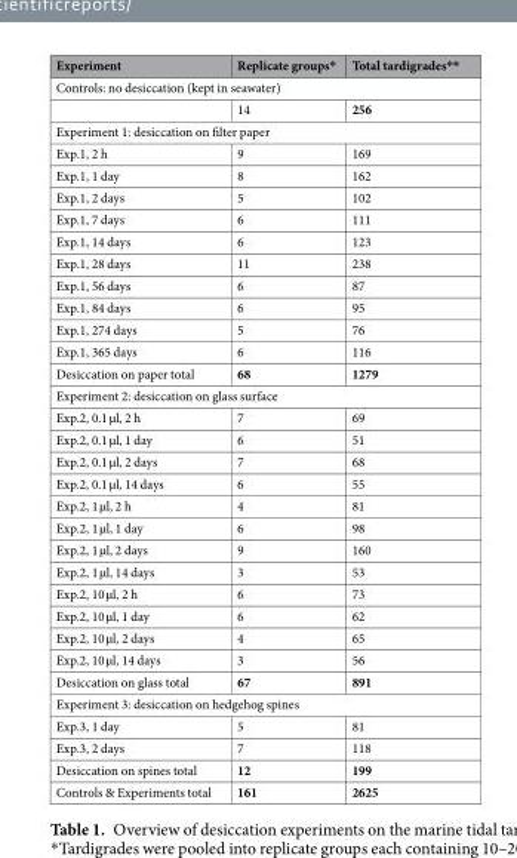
<table><thead><tr><td>Experiment</td><td>Replicate groups*</td><td>Total tardigrades**</td></tr></thead><tbody><tr><td colspan="3">Controls: no desiccation (kept in seawater)</td></tr><tr><td></td><td>14</td><td>256</td></tr><tr><td colspan="3">Experiment 1: desiccation on filter paper</td></tr><tr><td>Exp.1, 2 h</td><td>9</td><td>169</td></tr><tr><td>Exp.1, 1 day</td><td>8</td><td>162</td></tr><tr><td>Exp.1, 2 days</td><td>5</td><td>102</td></tr><tr><td>Exp.1, 7 days</td><td>6</td><td>111</td></tr><tr><td>Exp.1, 14 days</td><td>6</td><td>123</td></tr><tr><td>Exp.1, 28 days</td><td>11</td><td>238</td></tr><tr><td>Exp.1, 56 days</td><td>6</td><td>87</td></tr><tr><td>Exp.1, 84 days</td><td>6</td><td>95</td></tr><tr><td>Exp.1, 274 days</td><td>5</td><td>76</td></tr><tr><td>Exp.1, 365 days</td><td>6</td><td>116</td></tr><tr><td>Desiccation on paper total</td><td>68</td><td>1279</td></tr><tr><td colspan="3">Experiment 2: desiccation on glass surface</td></tr><tr><td>Exp.2, 0.1 µl, 2 h</td><td>7</td><td>69</td></tr><tr><td>Exp.2, 0.1 µl, 1 day</td><td>6</td><td>51</td></tr><tr><td>Exp.2, 0.1 µl, 2 days</td><td>7</td><td>68</td></tr><tr><td>Exp.2, 0.1 µl, 14 days</td><td>6</td><td>55</td></tr><tr><td>Exp.2, 1 µl, 2 h</td><td>4</td><td>81</td></tr><tr><td>Exp.2, 1 µl, 1 day</td><td>6</td><td>98</td></tr><tr><td>Exp.2, 1 µl, 2 days</td><td>9</td><td>160</td></tr><tr><td>Exp.2, 1 µl, 14 days</td><td>3</td><td>53</td></tr><tr><td>Exp.2, 10 µl, 2 h</td><td>6</td><td>73</td></tr><tr><td>Exp.2, 10 µl, 1 day</td><td>6</td><td>62</td></tr><tr><td>Exp.2, 10 µl, 2 days</td><td>4</td><td>65</td></tr><tr><td>Exp.2, 10 µl, 14 days</td><td>3</td><td>56</td></tr><tr><td>Desiccation on glass total</td><td>67</td><td>891</td></tr><tr><td colspan="3">Experiment 3: desiccation on hedgehog spines</td></tr><tr><td>Exp.3, 1 day</td><td>5</td><td>81</td></tr><tr><td>Exp.3, 2 days</td><td>7</td><td>118</td></tr><tr><td>Desiccation on spines total</td><td>12</td><td>199</td></tr><tr><td>Controls &amp; Experiments total</td><td>161</td><td>2625</td></tr></tbody></table>